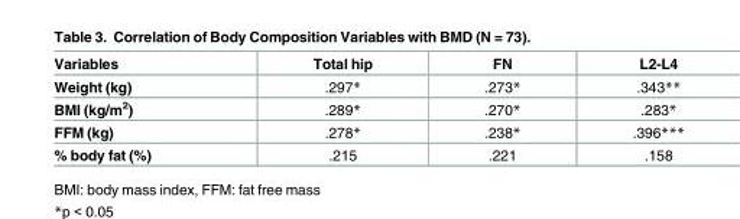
<table><thead><tr><td>Variables</td><td>Total hip</td><td>FN</td><td>L2-L4</td></tr></thead><tbody><tr><td>Weight (kg)</td><td>.297*</td><td>.273*</td><td>.343**</td></tr><tr><td>BMI (kg/m<sup>2</sup>)</td><td>.289*</td><td>.270*</td><td>.283*</td></tr><tr><td>FFM (kg)</td><td>.278*</td><td>.238*</td><td>.396***</td></tr><tr><td>% body fat (%)</td><td>.215</td><td>.221</td><td>.158</td></tr></tbody></table>